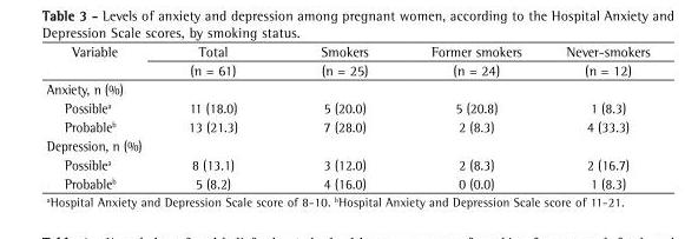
<table><thead><tr><td rowspan="2">Variable</td><td rowspan="2">Total (n = 61)</td><td rowspan="2">Smokers (n = 25)</td><td rowspan="2">Former smokers (n = 24)</td><td rowspan="2">Never-smokers (n = 12)</td></tr><tr></tr></thead><tbody><tr><td colspan="5">Anxiety, n (%)</td></tr><tr><td>Possible<sup>a</sup></td><td>11 (18.0)</td><td>5 (20.0)</td><td>5 (20.8)</td><td>1 (8.3)</td></tr><tr><td>Probable<sup>b</sup></td><td>13 (21.3)</td><td>7 (28.0)</td><td>2 (8.3)</td><td>4 (33.3)</td></tr><tr><td colspan="5">Depression, n (%)</td></tr><tr><td>Possible<sup>a</sup></td><td>8 (13.1)</td><td>3 (12.0)</td><td>2 (8.3)</td><td>2 (16.7)</td></tr><tr><td>Probable<sup>b</sup></td><td>5 (8.2)</td><td>4 (16.0)</td><td>0 (0.0)</td><td>1 (8.3)</td></tr></tbody></table>